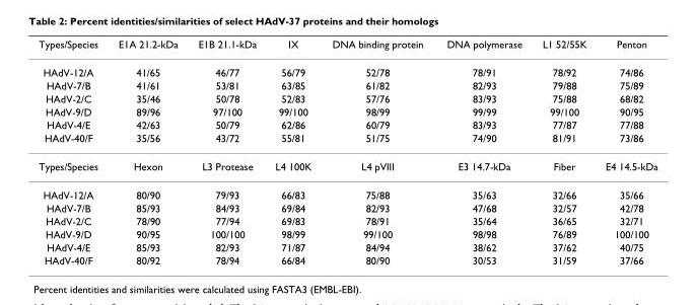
<table><thead><tr><td>Types/Species</td><td>E1A 21.2-kDa</td><td>E1B 21.1-kDa</td><td>IX</td><td>DNA binding protein</td><td>DNA polymerase</td><td>L1 52/55K</td><td>Penton</td></tr></thead><tbody><tr><td>HAdV-12/A</td><td>41/65</td><td>46/77</td><td>56/79</td><td>52/78</td><td>78/91</td><td>78/92</td><td>74/86</td></tr><tr><td>HAdV-7/B</td><td>41/61</td><td>53/81</td><td>63/85</td><td>61/82</td><td>82/93</td><td>79/88</td><td>75/89</td></tr><tr><td>HAdV-2/C</td><td>35/46</td><td>50/78</td><td>52/83</td><td>57/76</td><td>83/93</td><td>75/88</td><td>68/82</td></tr><tr><td>HAdV-9/D</td><td>89/96</td><td>97/100</td><td>99/100</td><td>98/99</td><td>99/99</td><td>99/100</td><td>90/95</td></tr><tr><td>HAdV-4/E</td><td>42/63</td><td>50/79</td><td>62/86</td><td>60/79</td><td>83/93</td><td>77/87</td><td>77/88</td></tr><tr><td>HAdV-40/F</td><td>35/56</td><td>43/72</td><td>55/81</td><td>51/75</td><td>74/90</td><td>81/91</td><td>73/86</td></tr><tr><td>Types/Species</td><td>Hexon</td><td>L3 Protease</td><td>L4 100K</td><td>L4 pVIII</td><td>E3 14.7-kDa</td><td>Fiber</td><td>E4 14.5-kDa</td></tr><tr><td>HAdV-12/A</td><td>80/90</td><td>79/93</td><td>66/83</td><td>75/88</td><td>35/63</td><td>32/66</td><td>35/66</td></tr><tr><td>HAdV-7/B</td><td>85/93</td><td>84/93</td><td>69/84</td><td>82/93</td><td>47/68</td><td>32/57</td><td>42/78</td></tr><tr><td>HAdV-2/C</td><td>78/90</td><td>77/94</td><td>69/83</td><td>78/91</td><td>35/64</td><td>36/65</td><td>32/71</td></tr><tr><td>HAdV-9/D</td><td>90/95</td><td>100/100</td><td>98/99</td><td>99/100</td><td>98/98</td><td>76/89</td><td>100/100</td></tr><tr><td>HAdV-4/E</td><td>85/93</td><td>82/93</td><td>71/87</td><td>84/94</td><td>38/62</td><td>37/62</td><td>40/75</td></tr><tr><td>HAdV-40/F</td><td>80/92</td><td>78/94</td><td>66/84</td><td>80/90</td><td>30/53</td><td>31/59</td><td>37/66</td></tr></tbody></table>